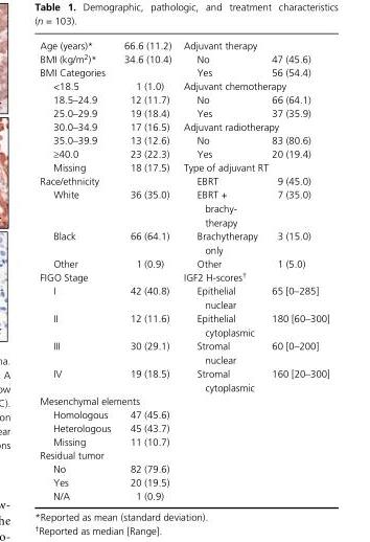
<table><tbody><tr><td>Age (years)*</td><td>66.6 (11.2)</td><td colspan="2">Adjuvant therapy</td></tr><tr><td>BMI (kg/m2)*</td><td>34.6 (10.4)</td><td>No</td><td>47 (45.6)</td></tr><tr><td colspan="2">BMI Categories</td><td>Yes</td><td>56 (54.4)</td></tr><tr><td>&lt;18.5</td><td>1 (1.0)</td><td colspan="2">Adjuvant chemotherapy</td></tr><tr><td>18.5–24.9</td><td>12 (11.7)</td><td>No</td><td>66 (64.1)</td></tr><tr><td>25.0–29.9</td><td>19 (18.4)</td><td>Yes</td><td>37 (35.9)</td></tr><tr><td>30.0–34.9</td><td>17 (16.5)</td><td colspan="2">Adjuvant radiotherapy</td></tr><tr><td>35.0–39.9</td><td>13 (12.6)</td><td>No</td><td>83 (80.6)</td></tr><tr><td>≥40.0</td><td>23 (22.3)</td><td>Yes</td><td>20 (19.4)</td></tr><tr><td>Missing</td><td>18 (17.5)</td><td colspan="2">Type of adjuvant RT</td></tr><tr><td colspan="2">Race/ethnicity</td><td>EBRT</td><td>9 (45.0)</td></tr><tr><td>White</td><td>36 (35.0)</td><td>EBRT + brachy- therapy</td><td>7 (35.0)</td></tr><tr><td>Black</td><td>66 (64.1)</td><td>Brachytherapy only</td><td>3 (15.0)</td></tr><tr><td>Other</td><td>1 (0.9)</td><td>Other</td><td>1 (5.0)</td></tr><tr><td colspan="2">FIGO Stage</td><td colspan="2">IGF2 H- scores†</td></tr><tr><td>I</td><td>42 (40.8)</td><td>Epithelial nuclear</td><td>65 [0–285]</td></tr><tr><td>II</td><td>12 (11.6)</td><td>Epithelial cytoplasmic</td><td>180 [60–300]</td></tr><tr><td>III</td><td>30 (29.1)</td><td>Stromal nuclear</td><td>60 [0–200]</td></tr><tr><td>IV</td><td>19 (18.5)</td><td>Stromal cytoplasmic</td><td>160 [20–300]</td></tr><tr><td colspan="4">Mesenchymal elements</td></tr><tr><td>Homologous</td><td>47 (45.6)</td><td></td><td></td></tr><tr><td>Heterologous</td><td>45 (43.7)</td><td></td><td></td></tr><tr><td>Missing</td><td>11 (10.7)</td><td></td><td></td></tr><tr><td colspan="4">Residual tumor</td></tr><tr><td>No</td><td>82 (79.6)</td><td></td><td></td></tr><tr><td>Yes</td><td>20 (19.5)</td><td></td><td></td></tr><tr><td>N/A</td><td>1 (0.9)</td><td></td><td></td></tr></tbody></table>